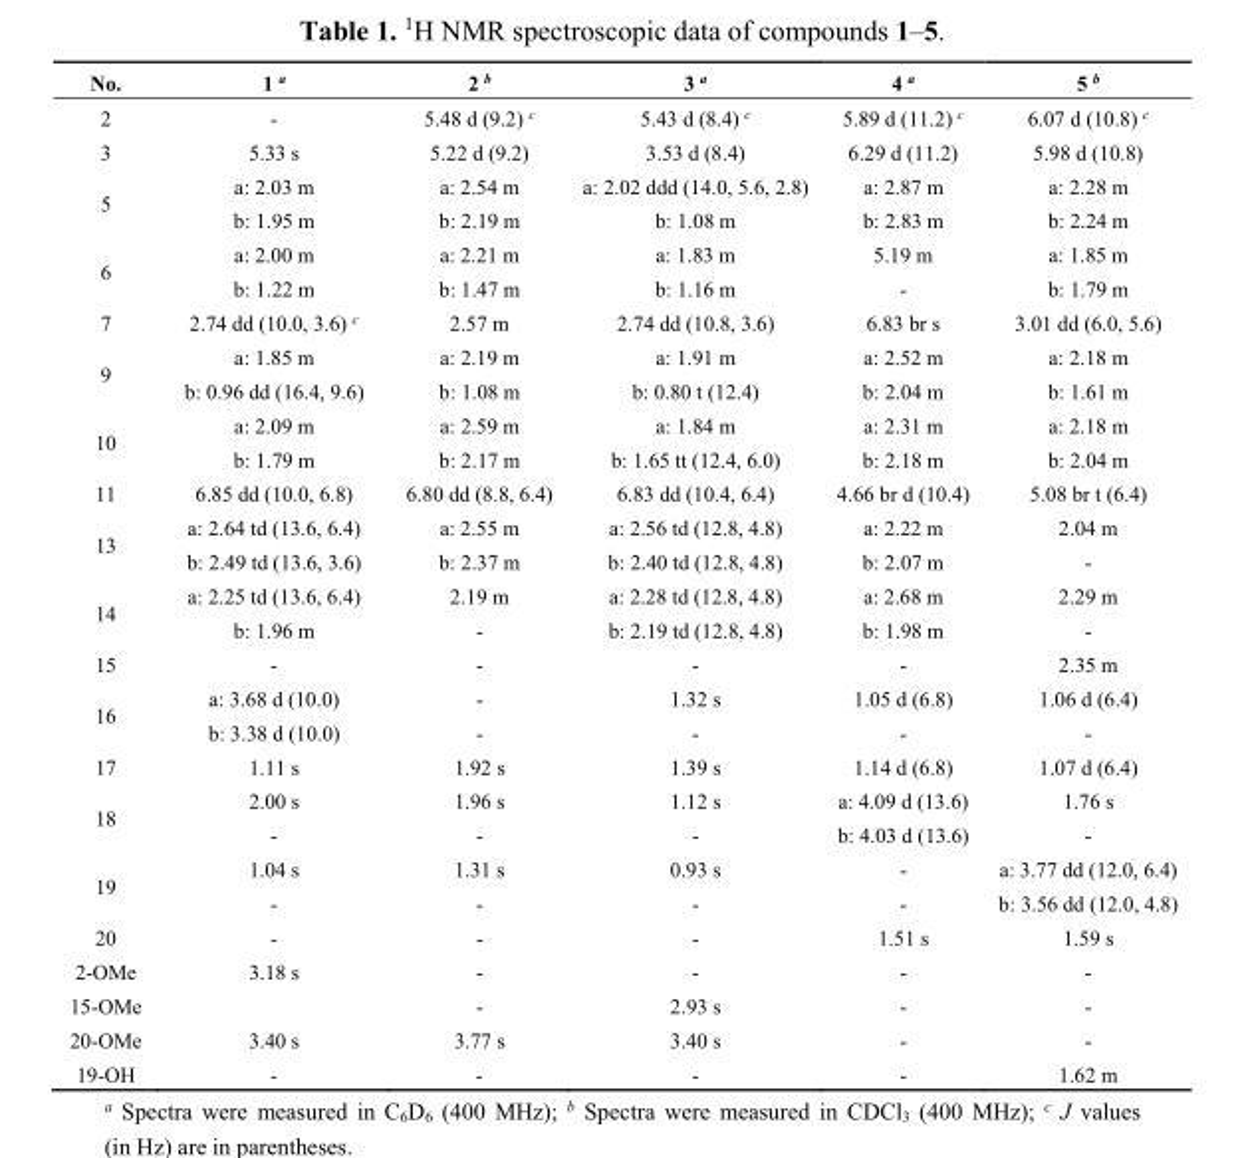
<table><thead><tr><td>No.</td><td>1 <sup>a</sup></td><td>2 <sup>b</sup></td><td>3 <sup>a</sup></td><td>4 <sup>a</sup></td><td>5 <sup>b</sup></td></tr></thead><tbody><tr><td>2</td><td>-</td><td>5.48 d (9.2) <sup>c</sup></td><td>5.43 d (8.4) <sup>c</sup></td><td>5.89 d (11.2) <sup>c</sup></td><td>6.07 d (10.8) <sup>c</sup></td></tr><tr><td>3</td><td>5.33 s</td><td>5.22 d (9.2)</td><td>3.53 d (8.4)</td><td>6.29 d (11.2)</td><td>5.98 d (10.8)</td></tr><tr><td rowspan="2">5</td><td>a: 2.03 m</td><td>a: 2.54 m</td><td>a: 2.02 ddd (14.0, 5.6, 2.8)</td><td>a: 2.87 m</td><td>a: 2.28 m</td></tr><tr><td>b: 1.95 m</td><td>b: 2.19 m</td><td>b: 1.08 m</td><td>b: 2.83 m</td><td>b: 2.24 m</td></tr><tr><td rowspan="2">6</td><td>a: 2.00 m</td><td>a: 2.21 m</td><td>a: 1.83 m</td><td>5.19 m</td><td>a: 1.85 m</td></tr><tr><td>b: 1.22 m</td><td>b: 1.47 m</td><td>b: 1.16 m</td><td>-</td><td>b: 1.79 m</td></tr><tr><td>7</td><td>2.74 dd (10.0, 3.6) <sup>c</sup></td><td>2.57 m</td><td>2.74 dd (10.8, 3.6)</td><td>6.83 br s</td><td>3.01 dd (6.0, 5.6)</td></tr><tr><td rowspan="2">9</td><td>a: 1.85 m</td><td>a: 2.19 m</td><td>a: 1.91 m</td><td>a: 2.52 m</td><td>a: 2.18 m</td></tr><tr><td>b: 0.96 dd (16.4, 9.6)</td><td>b: 1.08 m</td><td>b: 0.80 t (12.4)</td><td>b: 2.04 m</td><td>b: 1.61 m</td></tr><tr><td rowspan="2">10</td><td>a: 2.09 m</td><td>a: 2.59 m</td><td>a: 1.84 m</td><td>a: 2.31 m</td><td>a: 2.18 m</td></tr><tr><td>b: 1.79 m</td><td>b: 2.17 m</td><td>b: 1.65 tt (12.4, 6.0)</td><td>b: 2.18 m</td><td>b: 2.04 m</td></tr><tr><td>11</td><td>6.85 dd (10.0, 6.8)</td><td>6.80 dd (8.8, 6.4)</td><td>6.83 dd (10.4, 6.4)</td><td>4.66 br d (10.4)</td><td>5.08 br t (6.4)</td></tr><tr><td rowspan="2">13</td><td>a: 2.64 td (13.6, 6.4)</td><td>a: 2.55 m</td><td>a: 2.56 td (12.8, 4.8)</td><td>a: 2.22 m</td><td>2.04 m</td></tr><tr><td>b: 2.49 td (13.6, 3.6)</td><td>b: 2.37 m</td><td>b: 2.40 td (12.8, 4.8)</td><td>b: 2.07 m</td><td>-</td></tr><tr><td rowspan="2">14</td><td>a: 2.25 td (13.6, 6.4)</td><td>2.19 m</td><td>a: 2.28 td (12.8, 4.8)</td><td>a: 2.68 m</td><td>2.29 m</td></tr><tr><td>b: 1.96 m</td><td>-</td><td>b: 2.19 td (12.8, 4.8)</td><td>b: 1.98 m</td><td>-</td></tr><tr><td>15</td><td>-</td><td>-</td><td>-</td><td>-</td><td>2.35 m</td></tr><tr><td rowspan="2">16</td><td>a: 3.68 d (10.0)</td><td>-</td><td>1.32 s</td><td>1.05 d (6.8)</td><td>1.06 d (6.4)</td></tr><tr><td>b: 3.38 d (10.0)</td><td>-</td><td>-</td><td>-</td><td>-</td></tr><tr><td>17</td><td>1.11 s</td><td>1.92 s</td><td>1.39 s</td><td>1.14 d (6.8)</td><td>1.07 d (6.4)</td></tr><tr><td rowspan="2">18</td><td>2.00 s</td><td>1.96 s</td><td>1.12 s</td><td>a: 4.09 d (13.6)</td><td>1.76 s</td></tr><tr><td>-</td><td>-</td><td>-</td><td>b: 4.03 d (13.6)</td><td>-</td></tr><tr><td rowspan="2">19</td><td>1.04 s</td><td>1.31 s</td><td>0.93 s</td><td>-</td><td>a: 3.77 dd (12.0, 6.4)</td></tr><tr><td>-</td><td>-</td><td>-</td><td>-</td><td>b: 3.56 dd (12.0, 4.8)</td></tr><tr><td>20</td><td>-</td><td>-</td><td>-</td><td>1.51 s</td><td>1.59 s</td></tr><tr><td>2-OMe</td><td>3.18 s</td><td>-</td><td>-</td><td>-</td><td>-</td></tr><tr><td>15-OMe</td><td></td><td>-</td><td>2.93 s</td><td>-</td><td>-</td></tr><tr><td>20-OMe</td><td>3.40 s</td><td>3.77 s</td><td>3.40 s</td><td>-</td><td>-</td></tr><tr><td>19-OH</td><td>-</td><td>-</td><td>-</td><td>-</td><td>1.62 m</td></tr></tbody></table>